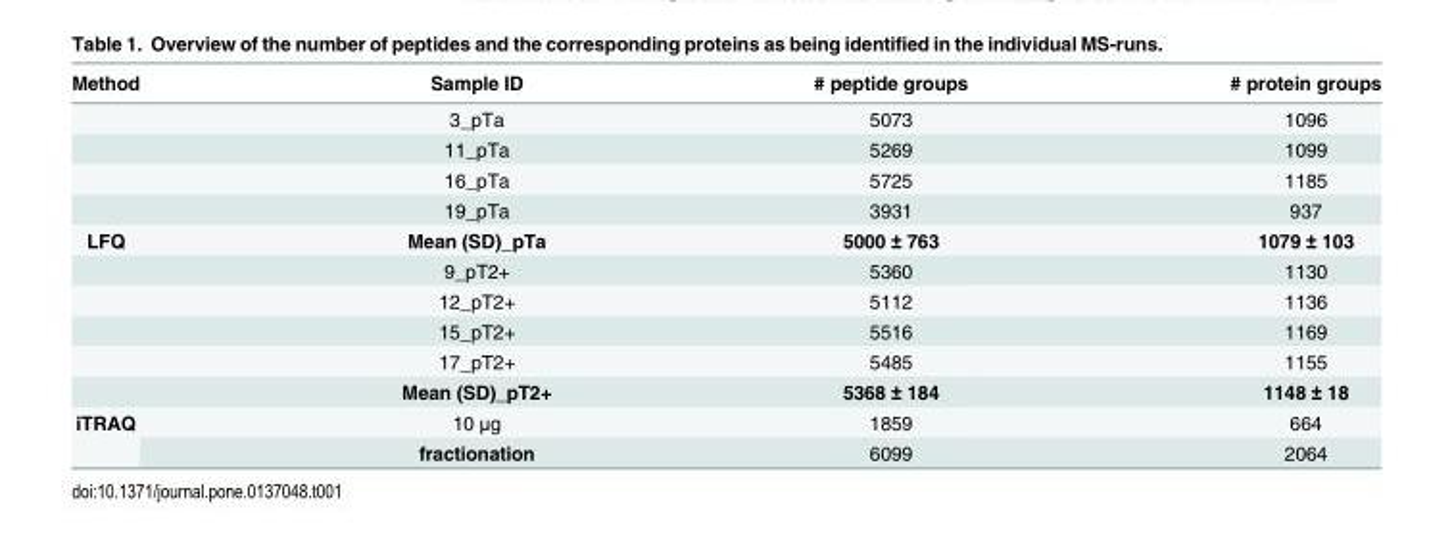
<table><thead><tr><td>Method</td><td>Sample ID</td><td># peptide groups</td><td># protein groups</td></tr></thead><tbody><tr><td></td><td>3_pTa</td><td>5073</td><td>1096</td></tr><tr><td></td><td>11_pTa</td><td>5269</td><td>1099</td></tr><tr><td></td><td>16_pTa</td><td>5725</td><td>1185</td></tr><tr><td></td><td>19_pTa</td><td>3931</td><td>937</td></tr><tr><td rowspan="6">LFQ</td><td>Mean (SD)_pTa</td><td>5000 ± 763</td><td>1079 ± 103</td></tr><tr><td>9_pT2+</td><td>5360</td><td>1130</td></tr><tr><td>12_pT2+</td><td>5112</td><td>1136</td></tr><tr><td>15_pT2+</td><td>5516</td><td>1169</td></tr><tr><td>17_pT2+</td><td>5485</td><td>1155</td></tr><tr><td>Mean (SD)_pT2+</td><td>5368 ± 184</td><td>1148 ± 18</td></tr><tr><td rowspan="2">iTRAQ</td><td>10 μg</td><td>1859</td><td>664</td></tr><tr><td>fractionation</td><td>6099</td><td>2064</td></tr></tbody></table>